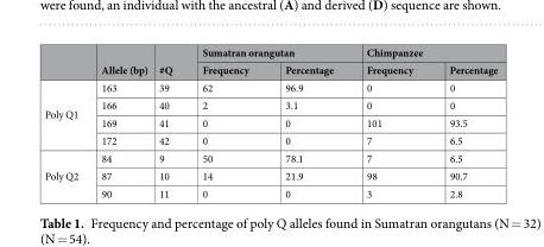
<table><thead><tr><td rowspan="2"></td><td rowspan="2">Allele (bp)</td><td rowspan="2">#Q</td><td colspan="2">Sumatran orangutan</td><td colspan="2">Chimpanzee</td></tr><tr><td>Frequency</td><td>Percentage</td><td>Frequency</td><td>Percentage</td></tr></thead><tbody><tr><td rowspan="4">Poly Q1</td><td>163</td><td>39</td><td>62</td><td>96.9</td><td>0</td><td>0</td></tr><tr><td>166</td><td>40</td><td>2</td><td>3.1</td><td>0</td><td>0</td></tr><tr><td>169</td><td>41</td><td>0</td><td>0</td><td>101</td><td>93.5</td></tr><tr><td>172</td><td>42</td><td>0</td><td>0</td><td>7</td><td>6.5</td></tr><tr><td rowspan="3">Poly Q2</td><td>84</td><td>9</td><td>50</td><td>78.1</td><td>7</td><td>6.5</td></tr><tr><td>87</td><td>10</td><td>14</td><td>21.9</td><td>98</td><td>90.7</td></tr><tr><td>90</td><td>11</td><td>0</td><td>0</td><td>3</td><td>2.8</td></tr></tbody></table>